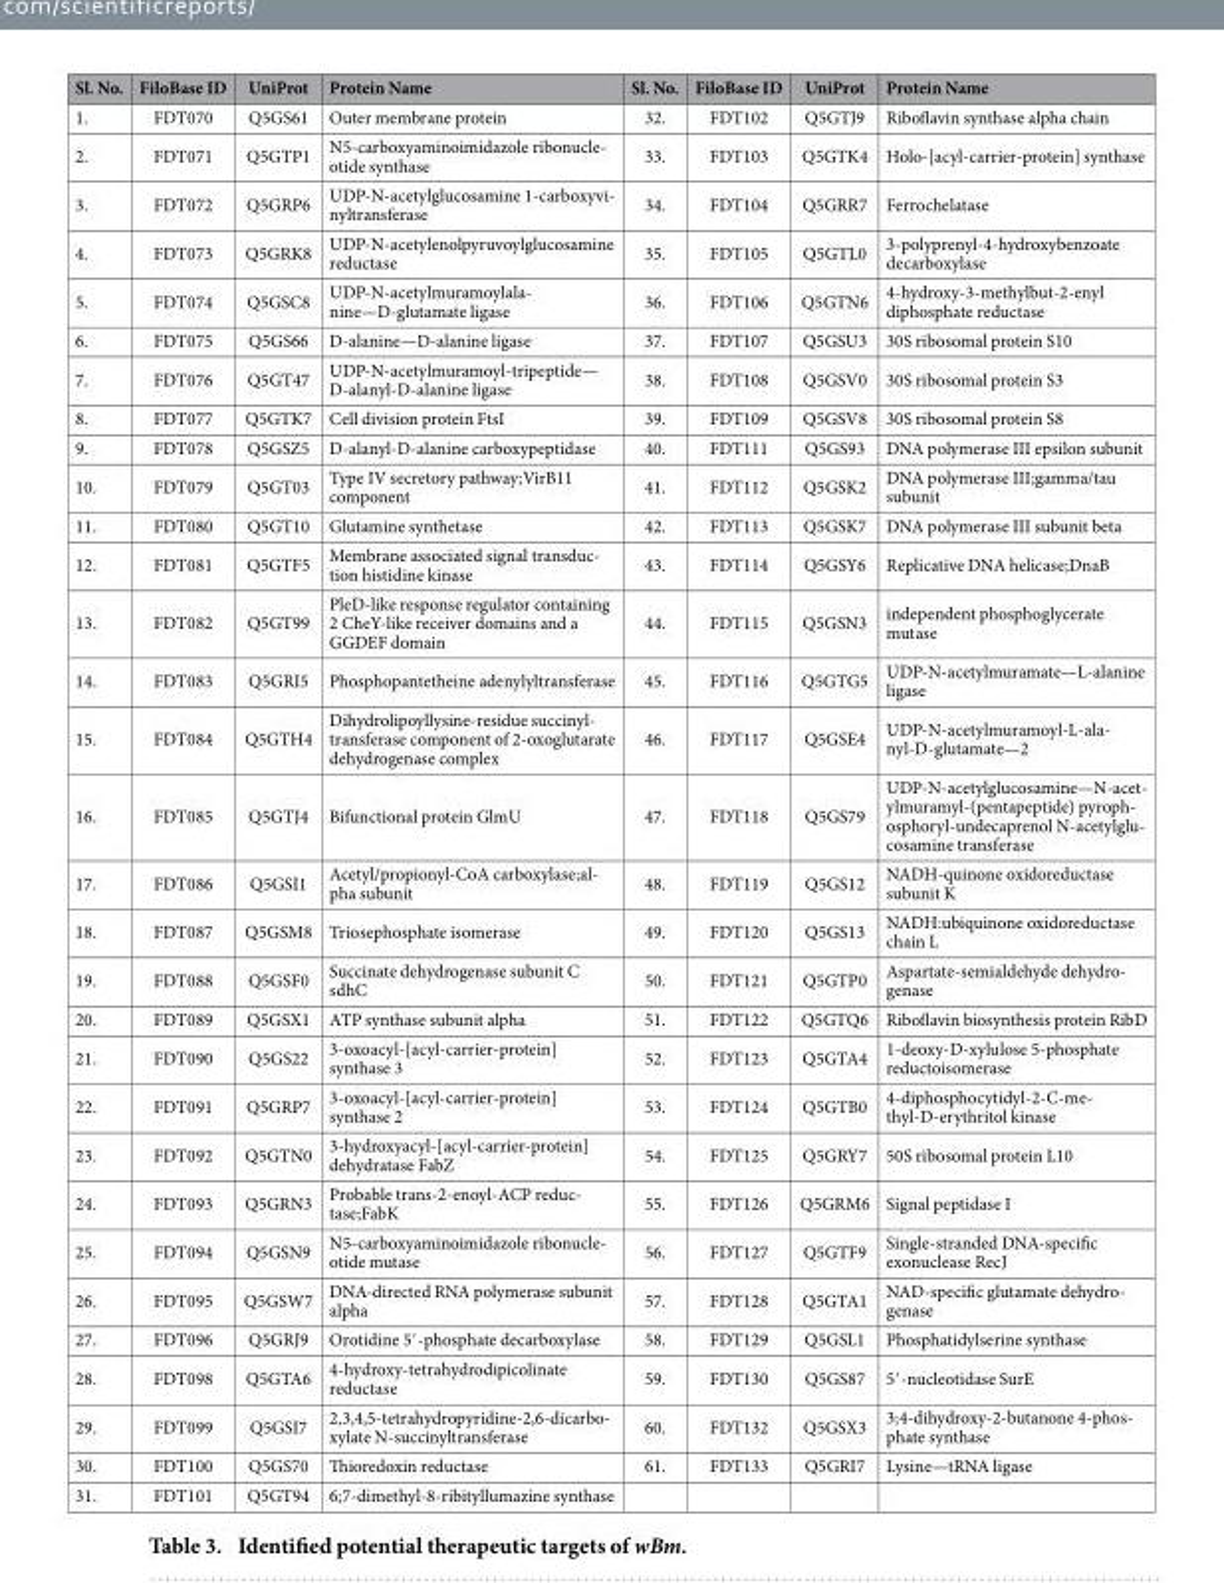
<table><thead><tr><td>Sl. No.</td><td>FiloBase ID</td><td>UniProt</td><td>Protein Name</td><td>Sl. No.</td><td>FiloBase ID</td><td>UniProt</td><td>Protein Name</td></tr></thead><tbody><tr><td>1.</td><td>FDT070</td><td>Q5GS61</td><td>Outer membrane protein</td><td>32.</td><td>FDT102</td><td>Q5GTJ9</td><td>Riboflavin synthase alpha chain</td></tr><tr><td>2.</td><td>FDT071</td><td>Q5GTP1</td><td>N5-carboxyaminoimidazole ribonucle- otide synthase</td><td>33.</td><td>FDT103</td><td>Q5GTK4</td><td>Holo-[acyl-carrier-protein] synthase</td></tr><tr><td>3.</td><td>FDT072</td><td>Q5GRP6</td><td>UDP-N-acetylglucosamine 1-carboxyvi- nyltransferase</td><td>34.</td><td>FDT104</td><td>Q5GRR7</td><td>Ferrochelatase</td></tr><tr><td>4.</td><td>FDT073</td><td>Q5GRK8</td><td>UDP-N-acetylenolpyruvoylglucosamine reductase</td><td>35.</td><td>FDT105</td><td>Q5GTL0</td><td>3-polyprenyl-4-hydroxybenzoate decarboxylase</td></tr><tr><td>5.</td><td>FDT074</td><td>Q5GSC8</td><td>UDP-N-acetylmuramoylala- nine—D-glutamate ligase</td><td>36.</td><td>FDT106</td><td>Q5GTN6</td><td>4-hydroxy-3-methylbut-2-enyl diphosphate reductase</td></tr><tr><td>6.</td><td>FDT075</td><td>Q5GS66</td><td>D-alanine—D-alanine ligase</td><td>37.</td><td>FDT107</td><td>Q5GSU3</td><td>30S ribosomal protein S10</td></tr><tr><td>7.</td><td>FDT076</td><td>Q5GT47</td><td>UDP-N-acetylmuramoyl-tripeptide— D-alanyl-D-alanine ligase</td><td>38.</td><td>FDT108</td><td>Q5GSV0</td><td>30S ribosomal protein S3</td></tr><tr><td>8.</td><td>FDT077</td><td>Q5GTK7</td><td>Cell division protein FtsI</td><td>39.</td><td>FDT109</td><td>Q5GSV8</td><td>30S ribosomal protein S8</td></tr><tr><td>9.</td><td>FDT078</td><td>Q5GSZ5</td><td>D-alanyl-D-alanine carboxypeptidase</td><td>40.</td><td>FDT111</td><td>Q5GS93</td><td>DNA polymerase III epsilon subunit</td></tr><tr><td>10.</td><td>FDT079</td><td>Q5GT03</td><td>Type IV secretory pathway;VirB11 component</td><td>41.</td><td>FDT112</td><td>Q5GSK2</td><td>DNA polymerase III;gamma/tau subunit</td></tr><tr><td>11.</td><td>FDT080</td><td>Q5GT10</td><td>Glutamine synthetase</td><td>42.</td><td>FDT113</td><td>Q5GSK7</td><td>DNA polymerase III subunit beta</td></tr><tr><td>12.</td><td>FDT081</td><td>Q5GTF5</td><td>Membrane associated signal transduc- tion histidine kinase</td><td>43.</td><td>FDT114</td><td>Q5GSY6</td><td>Replicative DNA helicase;DnaB</td></tr><tr><td>13.</td><td>FDT082</td><td>Q5GT99</td><td>PleD-like response regulator containing 2 CheY-like receiver domains and a GGDEF domain</td><td>44.</td><td>FDT115</td><td>Q5GSN3</td><td>independent phosphoglycerate mutase</td></tr><tr><td>14.</td><td>FDT083</td><td>Q5GRI5</td><td>Phosphopantetheine adenylyltransferase</td><td>45.</td><td>FDT116</td><td>Q5GTG5</td><td>UDP-N-acetylmuramate—L-alanine ligase</td></tr><tr><td>15.</td><td>FDT084</td><td>Q5GTH4</td><td>Dihydrolipoyllysine-residue succinyl- transferase component of 2-oxoglutarate dehydrogenase complex</td><td>46.</td><td>FDT117</td><td>Q5GSE4</td><td>UDP-N-acetylmuramoyl-L-ala- nyl-D-glutamate—2</td></tr><tr><td>16.</td><td>FDT085</td><td>Q5GTJ4</td><td>Bifunctional protein GlmU</td><td>47.</td><td>FDT118</td><td>Q5GS79</td><td>UDP-N-acetylglucosamine—N-acet- ylmuramyl-(pentapeptide) pyroph- osphoryl-undecaprenol N-acetylglu- cosamine transferase</td></tr><tr><td>17.</td><td>FDT086</td><td>Q5GSI1</td><td>Acetyl/propionyl-CoA carboxylase;al- pha subunit</td><td>48.</td><td>FDT119</td><td>Q5GS12</td><td>NADH-quinone oxidoreductase subunit K</td></tr><tr><td>18.</td><td>FDT087</td><td>Q5GSM8</td><td>Triosephosphate isomerase</td><td>49.</td><td>FDT120</td><td>Q5GS13</td><td>NADH:ubiquinone oxidoreductase chain L</td></tr><tr><td>19.</td><td>FDT088</td><td>Q5GSF0</td><td>Succinate dehydrogenase subunit C sdhC</td><td>50.</td><td>FDT121</td><td>Q5GTP0</td><td>Aspartate-semialdehyde dehydro- genase</td></tr><tr><td>20.</td><td>FDT089</td><td>Q5GSX1</td><td>ATP synthase subunit alpha</td><td>51.</td><td>FDT122</td><td>Q5GTQ6</td><td>Riboflavin biosynthesis protein RibD</td></tr><tr><td>21.</td><td>FDT090</td><td>Q5GS22</td><td>3-oxoacyl-[acyl-carrier-protein] synthase 3</td><td>52.</td><td>FDT123</td><td>Q5GTA4</td><td>1-deoxy-D-xylulose 5-phosphate reductoisomerase</td></tr><tr><td>22.</td><td>FDT091</td><td>Q5GRP7</td><td>3-oxoacyl-[acyl-carrier-protein] synthase 2</td><td>53.</td><td>FDT124</td><td>Q5GTB0</td><td>4-diphosphocytidyl-2-C-me- thyl-D-erythritol kinase</td></tr><tr><td>23.</td><td>FDT092</td><td>Q5GTN0</td><td>3-hydroxyacyl-[acyl-carrier-protein] dehydratase FabZ</td><td>54.</td><td>FDT125</td><td>Q5GRY7</td><td>50S ribosomal protein L10</td></tr><tr><td>24.</td><td>FDT093</td><td>Q5GRN3</td><td>Probable trans-2-enoyl-ACP reduc- tase;FabK</td><td>55.</td><td>FDT126</td><td>Q5GRM6</td><td>Signal peptidase I</td></tr><tr><td>25.</td><td>FDT094</td><td>Q5GSN9</td><td>N5-carboxyaminoimidazole ribonucle- otide mutase</td><td>56.</td><td>FDT127</td><td>Q5GTF9</td><td>Single-stranded DNA-specific exonuclease RecJ</td></tr><tr><td>26.</td><td>FDT095</td><td>Q5GSW7</td><td>DNA-directed RNA polymerase subunit alpha</td><td>57.</td><td>FDT128</td><td>Q5GTA1</td><td>NAD-specific glutamate dehydro- genase</td></tr><tr><td>27.</td><td>FDT096</td><td>Q5GRJ9</td><td>Orotidine 5′ -phosphate decarboxylase</td><td>58.</td><td>FDT129</td><td>Q5GSL1</td><td>Phosphatidylserine synthase</td></tr><tr><td>28.</td><td>FDT098</td><td>Q5GTA6</td><td>4-hydroxy-tetrahydrodipicolinate reductase</td><td>59.</td><td>FDT130</td><td>Q5GS87</td><td>5′ -nucleotidase SurE</td></tr><tr><td>29.</td><td>FDT099</td><td>Q5GSI7</td><td>2,3,4,5-tetrahydropyridine-2,6-dicarbo- xylate N-succinyltransferase</td><td>60.</td><td>FDT132</td><td>Q5GSX3</td><td>3;4-dihydroxy-2-butanone 4-phos- phate synthase</td></tr><tr><td>30.</td><td>FDT100</td><td>Q5GS70</td><td>Thioredoxin reductase</td><td>61.</td><td>FDT133</td><td>Q5GRI7</td><td>Lysine—tRNA ligase</td></tr><tr><td>31.</td><td>FDT101</td><td>Q5GT94</td><td>6;7-dimethyl-8-ribityllumazine synthase</td><td></td><td></td><td></td><td></td></tr></tbody></table>